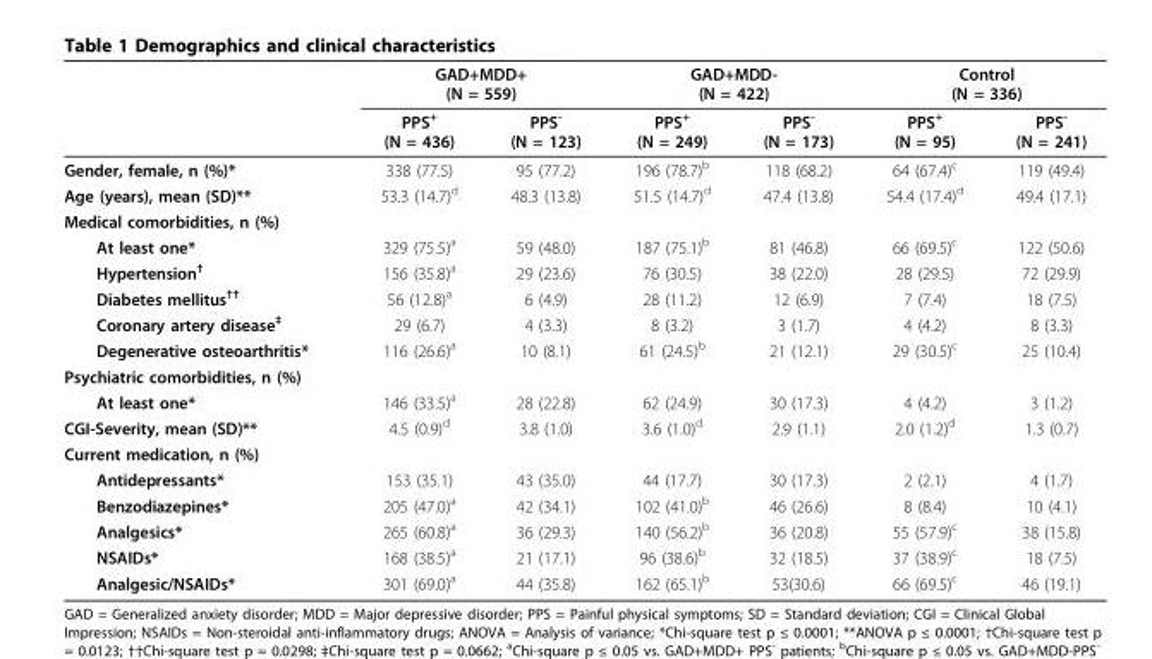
<table><thead><tr><td rowspan="2"></td><td colspan="2">GAD+MDD+ (N = 559)</td><td colspan="2">GAD+MDD- (N = 422)</td><td colspan="2">Control (N = 336)</td></tr><tr><td>PPS<sup>+</sup> (N = 436)</td><td>PPS<sup>-</sup> (N = 123)</td><td>PPS<sup>+</sup> (N = 249)</td><td>PPS<sup>-</sup> (N = 173)</td><td>PPS<sup>+</sup> (N = 95)</td><td>PPS<sup>-</sup> (N = 241)</td></tr></thead><tbody><tr><td>Gender, female, n (%)*</td><td>338 (77.5)</td><td>95 (77.2)</td><td>196 (78.7)<sup>b</sup></td><td>118 (68.2)</td><td>64 (67.4)<sup>c</sup></td><td>119 (49.4)</td></tr><tr><td>Age (years), mean (SD)**</td><td>53.3 (14.7)<sup>d</sup></td><td>48.3 (13.8)</td><td>51.5 (14.7)<sup>d</sup></td><td>47.4 (13.8)</td><td>54.4 (17.4)<sup>d</sup></td><td>49.4 (17.1)</td></tr><tr><td colspan="7">Medical comorbidities, n (%)</td></tr><tr><td>At least one*</td><td>329 (75.5)<sup>a</sup></td><td>59 (48.0)</td><td>187 (75.1)<sup>b</sup></td><td>81 (46.8)</td><td>66 (69.5)<sup>c</sup></td><td>122 (50.6)</td></tr><tr><td>Hypertension<sup>†</sup></td><td>156 (35.8)<sup>a</sup></td><td>29 (23.6)</td><td>76 (30.5)</td><td>38 (22.0)</td><td>28 (29.5)</td><td>72 (29.9)</td></tr><tr><td>Diabetes mellitus<sup>††</sup></td><td>56 (12.8)<sup>a</sup></td><td>6 (4.9)</td><td>28 (11.2)</td><td>12 (6.9)</td><td>7 (7.4)</td><td>18 (7.5)</td></tr><tr><td>Coronary artery disease<sup>‡</sup></td><td>29 (6.7)</td><td>4 (3.3)</td><td>8 (3.2)</td><td>3 (1.7)</td><td>4 (4.2)</td><td>8 (3.3)</td></tr><tr><td>Degenerative osteoarthritis*</td><td>116 (26.6)<sup>a</sup></td><td>10 (8.1)</td><td>61 (24.5)<sup>b</sup></td><td>21 (12.1)</td><td>29 (30.5)<sup>c</sup></td><td>25 (10.4)</td></tr><tr><td colspan="7">Psychiatric comorbidities, n (%)</td></tr><tr><td>At least one*</td><td>146 (33.5)<sup>a</sup></td><td>28 (22.8)</td><td>62 (24.9)</td><td>30 (17.3)</td><td>4 (4.2)</td><td>3 (1.2)</td></tr><tr><td>CGI-Severity, mean (SD)**</td><td>4.5 (0.9)<sup>d</sup></td><td>3.8 (1.0)</td><td>3.6 (1.0)<sup>d</sup></td><td>2.9 (1.1)</td><td>2.0 (1.2)<sup>d</sup></td><td>1.3 (0.7)</td></tr><tr><td colspan="7">Current medication, n (%)</td></tr><tr><td>Antidepressants*</td><td>153 (35.1)</td><td>43 (35.0)</td><td>44 (17.7)</td><td>30 (17.3)</td><td>2 (2.1)</td><td>4 (1.7)</td></tr><tr><td>Benzodiazepines*</td><td>205 (47.0)<sup>a</sup></td><td>42 (34.1)</td><td>102 (41.0)<sup>b</sup></td><td>46 (26.6)</td><td>8 (8.4)</td><td>10 (4.1)</td></tr><tr><td>Analgesics*</td><td>265 (60.8)<sup>a</sup></td><td>36 (29.3)</td><td>140 (56.2)<sup>b</sup></td><td>36 (20.8)</td><td>55 (57.9)<sup>c</sup></td><td>38 (15.8)</td></tr><tr><td>NSAIDs*</td><td>168 (38.5)<sup>a</sup></td><td>21 (17.1)</td><td>96 (38.6)<sup>b</sup></td><td>32 (18.5)</td><td>37 (38.9)<sup>c</sup></td><td>18 (7.5)</td></tr><tr><td>Analgesic/NSAIDs*</td><td>301 (69.0)<sup>a</sup></td><td>44 (35.8)</td><td>162 (65.1)<sup>b</sup></td><td>53(30.6)</td><td>66 (69.5)<sup>c</sup></td><td>46 (19.1)</td></tr></tbody></table>